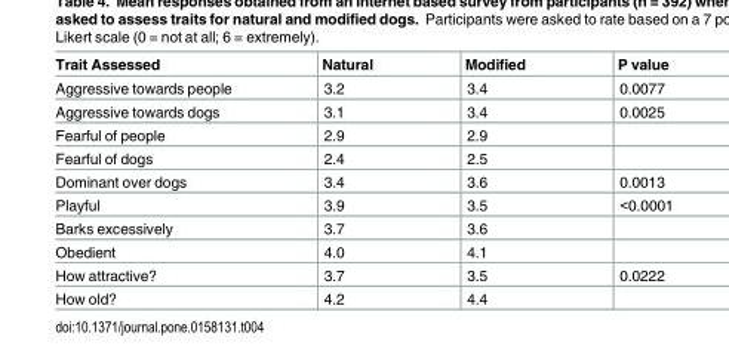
<table><thead><tr><td>Trait Assessed</td><td>Natural</td><td>Modified</td><td>P value</td></tr></thead><tbody><tr><td>Aggressive towards people</td><td>3.2</td><td>3.4</td><td>0.0077</td></tr><tr><td>Aggressive towards dogs</td><td>3.1</td><td>3.4</td><td>0.0025</td></tr><tr><td>Fearful of people</td><td>2.9</td><td>2.9</td><td></td></tr><tr><td>Fearful of dogs</td><td>2.4</td><td>2.5</td><td></td></tr><tr><td>Dominant over dogs</td><td>3.4</td><td>3.6</td><td>0.0013</td></tr><tr><td>Playful</td><td>3.9</td><td>3.5</td><td>&lt;0.0001</td></tr><tr><td>Barks excessively</td><td>3.7</td><td>3.6</td><td></td></tr><tr><td>Obedient</td><td>4.0</td><td>4.1</td><td></td></tr><tr><td>How attractive?</td><td>3.7</td><td>3.5</td><td>0.0222</td></tr><tr><td>How old?</td><td>4.2</td><td>4.4</td><td></td></tr></tbody></table>